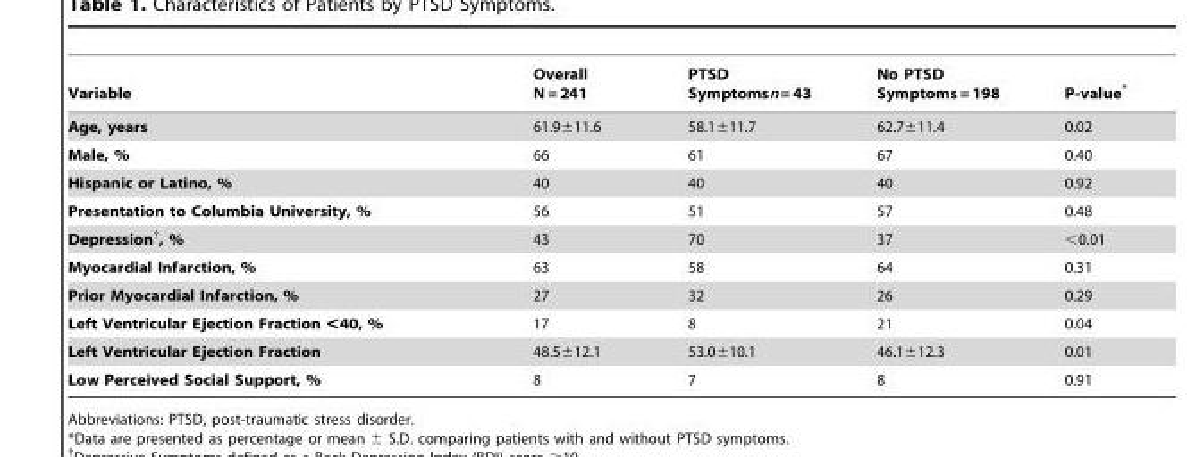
<table><thead><tr><td>Variable</td><td>Overall N = 241</td><td>PTSD Symptomsn = 43</td><td>No PTSD Symptoms = 198</td><td>P-value*</td></tr></thead><tbody><tr><td>Age, years</td><td>61.9±11.6</td><td>58.1±11.7</td><td>62.7±11.4</td><td>0.02</td></tr><tr><td>Male, %</td><td>66</td><td>61</td><td>67</td><td>0.40</td></tr><tr><td>Hispanic or Latino, %</td><td>40</td><td>40</td><td>40</td><td>0.92</td></tr><tr><td>Presentation to Columbia University, %</td><td>56</td><td>51</td><td>57</td><td>0.48</td></tr><tr><td>Depression†, %</td><td>43</td><td>70</td><td>37</td><td>&lt;0.01</td></tr><tr><td>Myocardial Infarction, %</td><td>63</td><td>58</td><td>64</td><td>0.31</td></tr><tr><td>Prior Myocardial Infarction, %</td><td>27</td><td>32</td><td>26</td><td>0.29</td></tr><tr><td>Left Ventricular Ejection Fraction &lt;40, %</td><td>17</td><td>8</td><td>21</td><td>0.04</td></tr><tr><td>Left Ventricular Ejection Fraction</td><td>48.5±12.1</td><td>53.0±10.1</td><td>46.1±12.3</td><td>0.01</td></tr><tr><td>Low Perceived Social Support, %</td><td>8</td><td>7</td><td>8</td><td>0.91</td></tr></tbody></table>